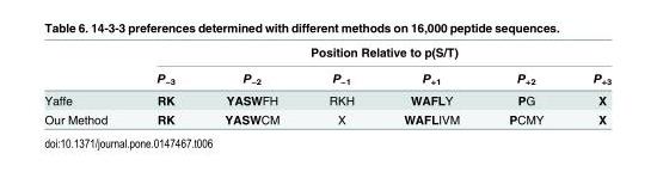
<table><thead><tr><td rowspan="2"></td><td colspan="6">Position Relative to p(S/T)</td></tr><tr><td>P<sub>−3</sub></td><td>P<sub>−2</sub></td><td>P<sub>−1</sub></td><td>P<sub>+1</sub></td><td>P<sub>+2</sub></td><td>P<sub>+3</sub></td></tr></thead><tbody><tr><td>Yaffe</td><td>RK</td><td>YASWFH</td><td>RKH</td><td>WAFLY</td><td>PG</td><td>X</td></tr><tr><td>Our Method</td><td>RK</td><td>YASWCM</td><td>X</td><td>WAFLIVM</td><td>PCMY</td><td>X</td></tr></tbody></table>